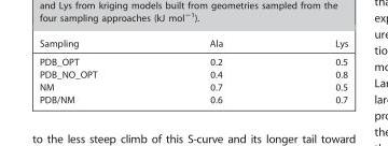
<table><thead><tr><td>Sampling</td><td>Ala</td><td>Lys</td></tr></thead><tbody><tr><td>PDB_OPT</td><td>0.2</td><td>0.5</td></tr><tr><td>PDB_NO_OPT</td><td>0.4</td><td>0.8</td></tr><tr><td>NM</td><td>0.7</td><td>0.5</td></tr><tr><td>PDB/NM</td><td>0.6</td><td>0.7</td></tr></tbody></table>